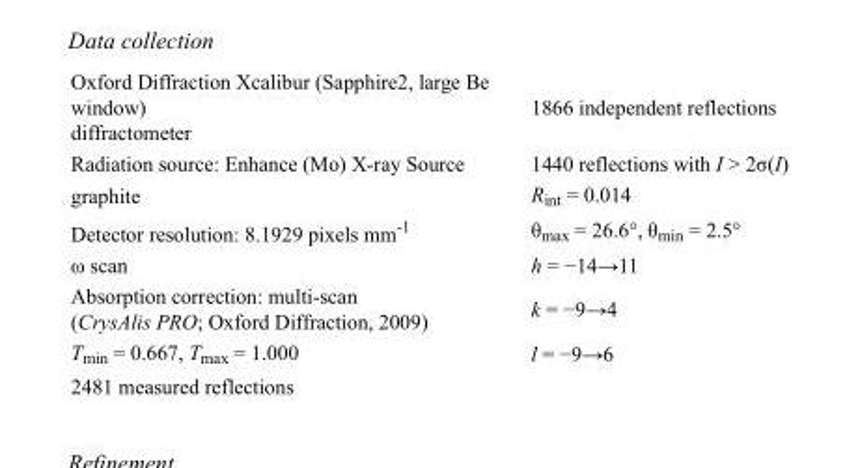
<table><tbody><tr><td>Oxford Diffraction Xcalibur (Sapphire2, large Be window) diffractometer</td><td>1866 independent reflections</td></tr><tr><td>Radiation source: Enhance (Mo) X-ray Source</td><td>1440 reflections with I &gt; 2σ(I)</td></tr><tr><td>graphite</td><td>R<sub>int</sub> = 0.014</td></tr><tr><td>Detector resolution: 8.1929 pixels mm<sup>-1</sup></td><td>θ<sub>max</sub> = 26.6°, θ<sub>min</sub> = 2.5°</td></tr><tr><td>ω scan</td><td>h = −14→11</td></tr><tr><td>Absorption correction: multi-scan (CrysAlis PRO; Oxford Diffraction, 2009)</td><td>k = −9→4</td></tr><tr><td>T<sub>min</sub> = 0.667, T<sub>max</sub> = 1.000</td><td>l = −9→6</td></tr><tr><td>2481 measured reflections</td><td></td></tr></tbody></table>